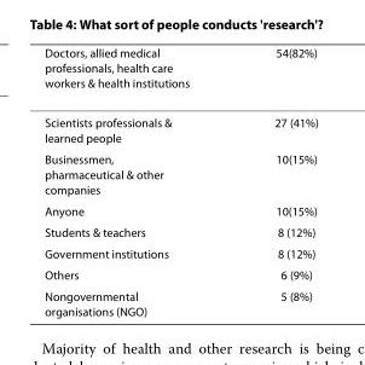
<table><thead><tr><td>Doctors, allied medical professionals, health care workers &amp; health institutions</td><td>54(82%)</td></tr></thead><tbody><tr><td>Scientists professionals &amp; learned people</td><td>27 (41%)</td></tr><tr><td>Businessmen, pharmaceutical &amp; other companies</td><td>10(15%)</td></tr><tr><td>Anyone</td><td>10(15%)</td></tr><tr><td>Students &amp; teachers</td><td>8 (12%)</td></tr><tr><td>Government institutions</td><td>8 (12%)</td></tr><tr><td>Others</td><td>6 (9%)</td></tr><tr><td>Nongovernmental organisations (NGO)</td><td>5 (8%)</td></tr></tbody></table>